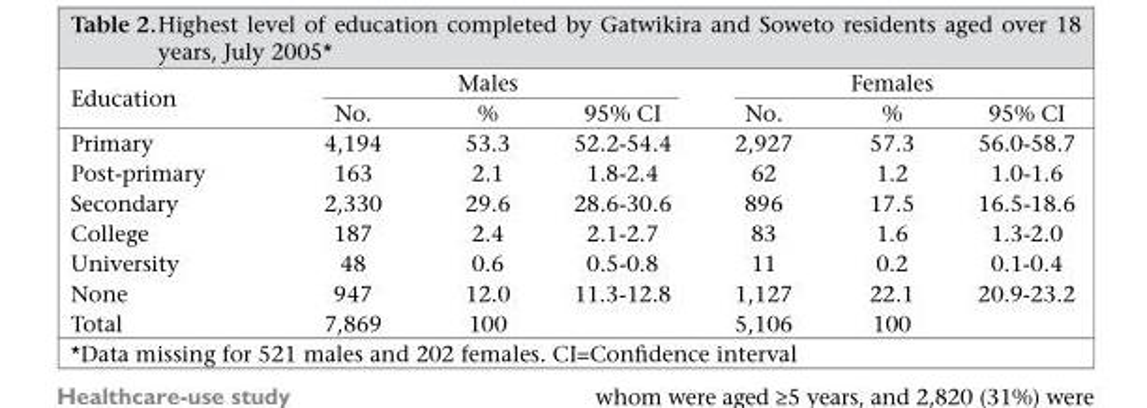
<table><thead><tr><td rowspan="2">Education</td><td colspan="3">Males</td><td colspan="3">Females</td></tr><tr><td>No.</td><td>%</td><td>95% CI</td><td>No.</td><td>%</td><td>95% CI</td></tr></thead><tbody><tr><td>Primary</td><td>4,194</td><td>53.3</td><td>52.2-54.4</td><td>2,927</td><td>57.3</td><td>56.0-58.7</td></tr><tr><td>Post-primary</td><td>163</td><td>2.1</td><td>1.8-2.4</td><td>62</td><td>1.2</td><td>1.0-1.6</td></tr><tr><td>Secondary</td><td>2,330</td><td>29.6</td><td>28.6-30.6</td><td>896</td><td>17.5</td><td>16.5-18.6</td></tr><tr><td>College</td><td>187</td><td>2.4</td><td>2.1-2.7</td><td>83</td><td>1.6</td><td>1.3-2.0</td></tr><tr><td>University</td><td>48</td><td>0.6</td><td>0.5-0.8</td><td>11</td><td>0.2</td><td>0.1-0.4</td></tr><tr><td>None</td><td>947</td><td>12.0</td><td>11.3-12.8</td><td>1,127</td><td>22.1</td><td>20.9-23.2</td></tr><tr><td>Total</td><td>7,869</td><td>100</td><td></td><td>5,106</td><td>100</td><td></td></tr></tbody></table>